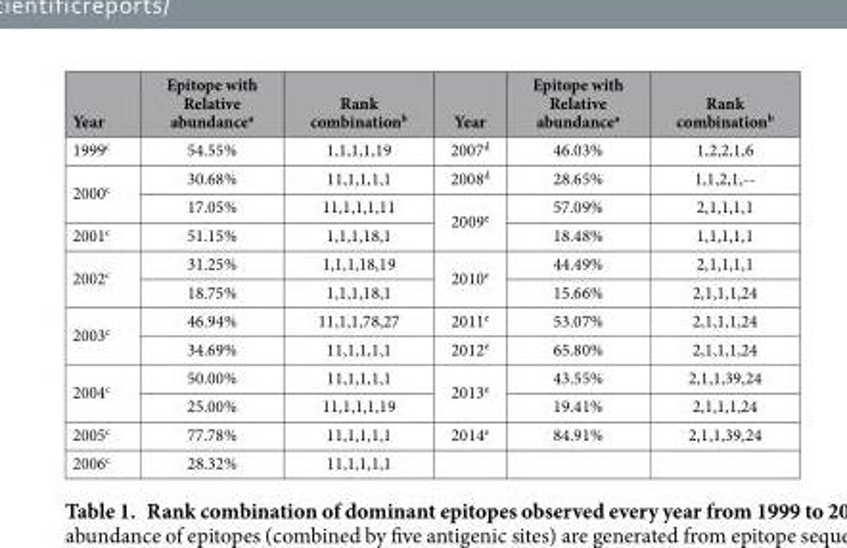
<table><thead><tr><td>Year</td><td>Epitope with Relative abundance<sup>a</sup></td><td>Rank combination<sup>b</sup></td><td>Year</td><td>Epitope with Relative abundance<sup>a</sup></td><td>Rank combination<sup>b</sup></td></tr></thead><tbody><tr><td>1999<sup>c</sup></td><td>54.55%</td><td>1,1,1,1,19</td><td>2007<sup>d</sup></td><td>46.03%</td><td>1,2,2,1,6</td></tr><tr><td rowspan="2">2000<sup>c</sup></td><td>30.68%</td><td>11,1,1,1,1</td><td>2008<sup>d</sup></td><td>28.65%</td><td>1,1,2,1,--</td></tr><tr><td>17.05%</td><td>11,1,1,1,11</td><td rowspan="2">2009<sup>e</sup></td><td>57.09%</td><td>2,1,1,1,1</td></tr><tr><td>2001<sup>c</sup></td><td>51.15%</td><td>1,1,1,18,1</td><td>18.48%</td><td>1,1,1,1,1</td></tr><tr><td rowspan="2">2002<sup>c</sup></td><td>31.25%</td><td>1,1,1,18,19</td><td rowspan="2">2010<sup>e</sup></td><td>44.49%</td><td>2,1,1,1,1</td></tr><tr><td>18.75%</td><td>1,1,1,18,1</td><td>15.66%</td><td>2,1,1,1,24</td></tr><tr><td rowspan="2">2003<sup>c</sup></td><td>46.94%</td><td>11,1,1,78,27</td><td>2011<sup>e</sup></td><td>53.07%</td><td>2,1,1,1,24</td></tr><tr><td>34.69%</td><td>11,1,1,1,1</td><td>2012<sup>e</sup></td><td>65.80%</td><td>2,1,1,1,24</td></tr><tr><td rowspan="2">2004<sup>c</sup></td><td>50.00%</td><td>11,1,1,1,1</td><td rowspan="2">2013<sup>e</sup></td><td>43.55%</td><td>2,1,1,39,24</td></tr><tr><td>25.00%</td><td>11,1,1,1,19</td><td>19.41%</td><td>2,1,1,1,24</td></tr><tr><td>2005<sup>c</sup></td><td>77.78%</td><td>11,1,1,1,1</td><td>2014<sup>e</sup></td><td>84.91%</td><td>2,1,1,39,24</td></tr><tr><td>2006<sup>c</sup></td><td>28.32%</td><td>11,1,1,1,1</td><td></td><td></td><td></td></tr></tbody></table>